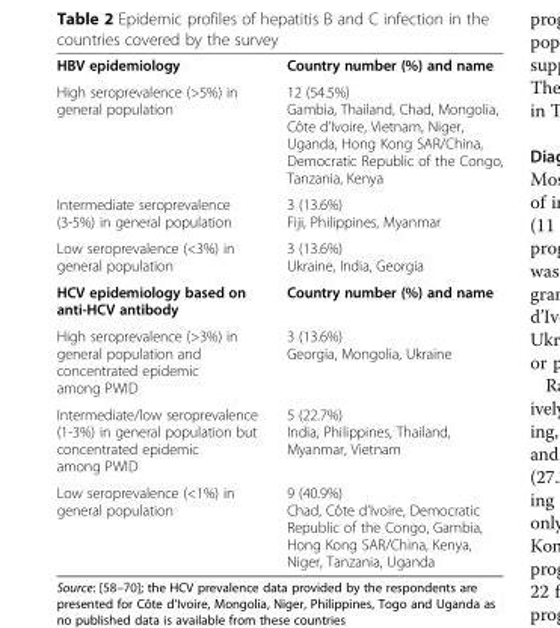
<table><tbody><tr><td>HBV epidemiology</td><td>Country number (%) and name</td></tr><tr><td>High seroprevalence (&gt;5%) in general population</td><td>12 (54.5%) Gambia, Thailand, Chad, Mongolia, Côte d’Ivoire, Vietnam, Niger, Uganda, Hong Kong SAR/China, Democratic Republic of the Congo, Tanzania, Kenya</td></tr><tr><td>Intermediate seroprevalence (3-5%) in general population</td><td>3 (13.6%) Fiji, Philippines, Myanmar</td></tr><tr><td>Low seroprevalence (&lt;3%) in general population</td><td>3 (13.6%) Ukraine, India, Georgia</td></tr><tr><td>HCV epidemiology based on anti-HCV antibody</td><td>Country number (%) and name</td></tr><tr><td>High seroprevalence (&gt;3%) in general population and concentrated epidemic among PWID</td><td>3 (13.6%) Georgia, Mongolia, Ukraine</td></tr><tr><td>Intermediate/low seroprevalence (1-3%) in general population but concentrated epidemic among PWID</td><td>5 (22.7%) India, Philippines, Thailand, Myanmar, Vietnam</td></tr><tr><td>Low seroprevalence (&lt;1%) in general population</td><td>9 (40.9%) Chad, Côte d’Ivoire, Democratic Republic of the Congo, Gambia, Hong Kong SAR/China, Kenya, Niger, Tanzania, Uganda</td></tr></tbody></table>